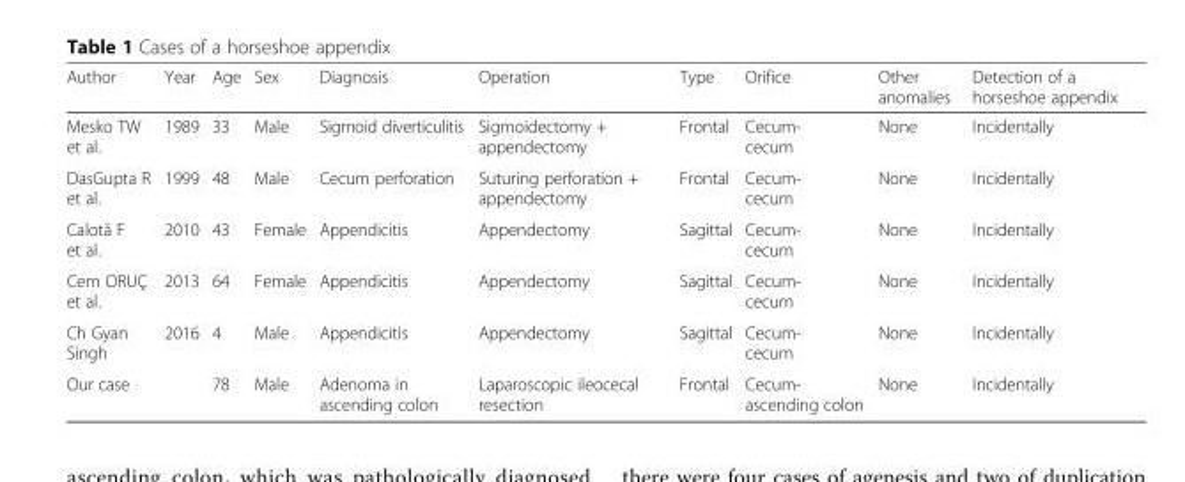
<table><thead><tr><td>Author</td><td>Year</td><td>Age</td><td>Sex</td><td>Diagnosis</td><td>Operation</td><td>Type</td><td>Orifice</td><td>Other anomalies</td><td>Detection of a horseshoe appendix</td></tr></thead><tbody><tr><td>Mesko TW et al.</td><td>1989</td><td>33</td><td>Male</td><td>Sigmoid diverticulitis</td><td>Sigmoidectomy + appendectomy</td><td>Frontal</td><td>Cecum- cecum</td><td>None</td><td>Incidentally</td></tr><tr><td>DasGupta R et al.</td><td>1999</td><td>48</td><td>Male</td><td>Cecum perforation</td><td>Suturing perforation + appendectomy</td><td>Frontal</td><td>Cecum- cecum</td><td>None</td><td>Incidentally</td></tr><tr><td>Calotă F et al.</td><td>2010</td><td>43</td><td>Female</td><td>Appendicitis</td><td>Appendectomy</td><td>Sagittal</td><td>Cecum- cecum</td><td>None</td><td>Incidentally</td></tr><tr><td>Cem ORUÇ et al.</td><td>2013</td><td>64</td><td>Female</td><td>Appendicitis</td><td>Appendectomy</td><td>Sagittal</td><td>Cecum- cecum</td><td>None</td><td>Incidentally</td></tr><tr><td>Ch Gyan Singh</td><td>2016</td><td>4</td><td>Male</td><td>Appendicitis</td><td>Appendectomy</td><td>Sagittal</td><td>Cecum- cecum</td><td>None</td><td>Incidentally</td></tr><tr><td>Our case</td><td></td><td>78</td><td>Male</td><td>Adenoma in ascending colon</td><td>Laparoscopic ileocecal resection</td><td>Frontal</td><td>Cecum- ascending colon</td><td>None</td><td>Incidentally</td></tr></tbody></table>